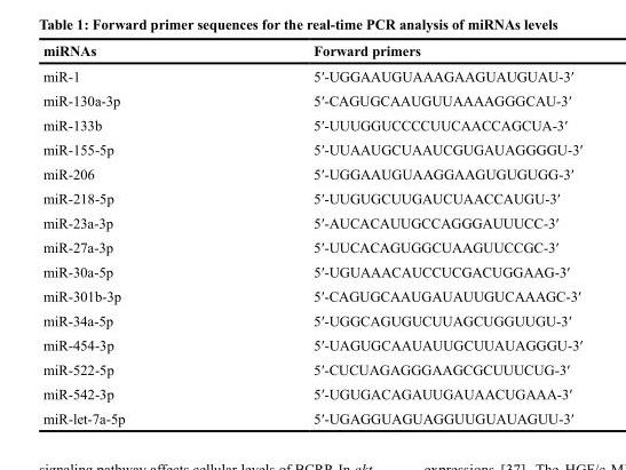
<table><thead><tr><td>miRNAs</td><td>Forward primers</td></tr></thead><tbody><tr><td>miR-1</td><td>5′-UGGAAUGUAAAGAAGUAUGUAU-3′</td></tr><tr><td>miR-130a-3p</td><td>5′-CAGUGCAAUGUUAAAAGGGCAU-3′</td></tr><tr><td>miR-133b</td><td>5′-UUUGGUCCCCUUCAACCAGCUA-3′</td></tr><tr><td>miR-155-5p</td><td>5′-UUAAUGCUAAUCGUGAUAGGGGU-3′</td></tr><tr><td>miR-206</td><td>5′-UGGAAUGUAAGGAAGUGUGUGG-3′</td></tr><tr><td>miR-218-5p</td><td>5′-UUGUGCUUGAUCUAACCAUGU-3′</td></tr><tr><td>miR-23a-3p</td><td>5′-AUCACAUUGCCAGGGAUUUCC-3′</td></tr><tr><td>miR-27a-3p</td><td>5′-UUCACAGUGGCUAAGUUCCGC-3′</td></tr><tr><td>miR-30a-5p</td><td>5′-UGUAAACAUCCUCGACUGGAAG-3′</td></tr><tr><td>miR-301b-3p</td><td>5′-CAGUGCAAUGAUAUUGUCAAAGC-3′</td></tr><tr><td>miR-34a-5p</td><td>5′-UGGCAGUGUCUUAGCUGGUUGU-3′</td></tr><tr><td>miR-454-3p</td><td>5′-UAGUGCAAUAUUGCUUAUAGGGU-3′</td></tr><tr><td>miR-522-5p</td><td>5′-CUCUAGAGGGAAGCGCUUUCUG-3′</td></tr><tr><td>miR-542-3p</td><td>5′-UGUGACAGAUUGAUAACUGAAA-3′</td></tr><tr><td>miR-let-7a-5p</td><td>5′-UGAGGUAGUAGGUUGUAUAGUU-3′</td></tr></tbody></table>